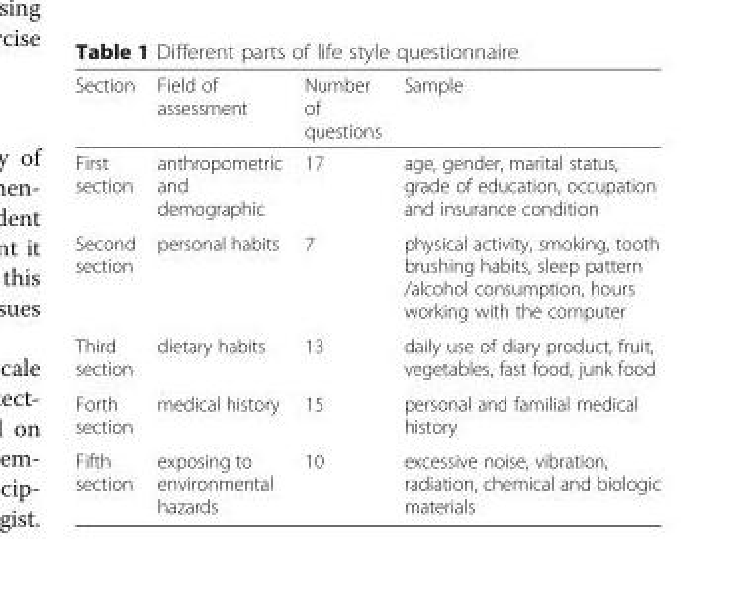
<table><thead><tr><td>Section</td><td>Field of assessment</td><td>Number of questions</td><td>Sample</td></tr></thead><tbody><tr><td>First section</td><td>anthropometric and demographic</td><td>17</td><td>age, gender, marital status, grade of education, occupation and insurance condition</td></tr><tr><td>Second section</td><td>personal habits</td><td>7</td><td>physical activity, smoking, tooth brushing habits, sleep pattern /alcohol consumption, hours working with the computer</td></tr><tr><td>Third section</td><td>dietary habits</td><td>13</td><td>daily use of diary product, fruit, vegetables, fast food, junk food</td></tr><tr><td>Forth section</td><td>medical history</td><td>15</td><td>personal and familial medical history</td></tr><tr><td>Fifth section</td><td>exposing to environmental hazards</td><td>10</td><td>excessive noise, vibration, radiation, chemical and biologic materials</td></tr></tbody></table>